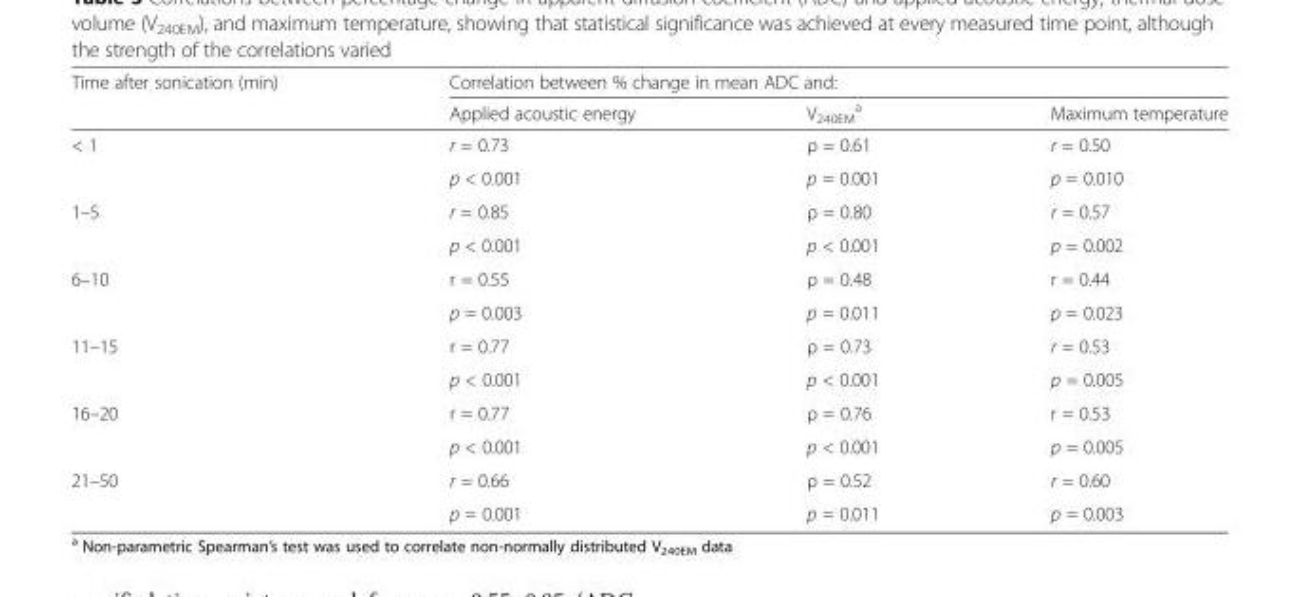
<table><thead><tr><td rowspan="2">Time after sonication (min)</td><td colspan="3">Correlation between % change in mean ADC and:</td></tr><tr><td>Applied acoustic energy</td><td>V<sub>240EM</sub> <sup>a</sup></td><td>Maximum temperature</td></tr></thead><tbody><tr><td rowspan="2">&lt; 1</td><td>r = 0.73</td><td>ρ = 0.61</td><td>r = 0.50</td></tr><tr><td>p &lt; 0.001</td><td>p = 0.001</td><td>p = 0.010</td></tr><tr><td rowspan="2">1–5</td><td>r = 0.85</td><td>ρ = 0.80</td><td>r = 0.57</td></tr><tr><td>p &lt; 0.001</td><td>p &lt; 0.001</td><td>p = 0.002</td></tr><tr><td rowspan="2">6–10</td><td>r = 0.55</td><td>ρ = 0.48</td><td>r = 0.44</td></tr><tr><td>p = 0.003</td><td>p = 0.011</td><td>p = 0.023</td></tr><tr><td rowspan="2">11–15</td><td>r = 0.77</td><td>ρ = 0.73</td><td>r = 0.53</td></tr><tr><td>p &lt; 0.001</td><td>p &lt; 0.001</td><td>p = 0.005</td></tr><tr><td rowspan="2">16–20</td><td>r = 0.77</td><td>ρ = 0.76</td><td>r = 0.53</td></tr><tr><td>p &lt; 0.001</td><td>p &lt; 0.001</td><td>p = 0.005</td></tr><tr><td rowspan="2">21–50</td><td>r = 0.66</td><td>ρ = 0.52</td><td>r = 0.60</td></tr><tr><td>p = 0.001</td><td>p = 0.011</td><td>p = 0.003</td></tr></tbody></table>